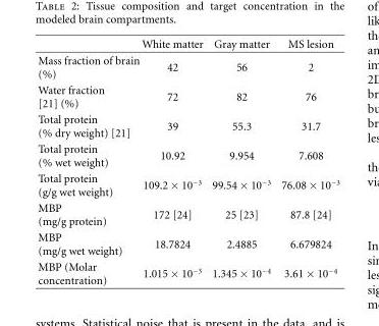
<table><thead><tr><td></td><td>White matter</td><td>Gray matter</td><td>MS lesion</td></tr></thead><tbody><tr><td>Mass fraction of brain (%)</td><td>42</td><td>56</td><td>2</td></tr><tr><td>Water fraction [21] (%)</td><td>72</td><td>82</td><td>76</td></tr><tr><td>Total protein (% dry weight) [21]</td><td>39</td><td>55.3</td><td>31.7</td></tr><tr><td>Total protein (% wet weight)</td><td>10.92</td><td>9.954</td><td>7.608</td></tr><tr><td>Total protein (g/g wet weight)</td><td>109.2 × 10<sup>−3</sup></td><td>99.54 × 10<sup>−3</sup></td><td>76.08 × 10<sup>−3</sup></td></tr><tr><td>MBP (mg/g protein)</td><td>172 [24]</td><td>25 [23]</td><td>87.8 [24]</td></tr><tr><td>MBP (mg/g wet weight)</td><td>18.7824</td><td>2.4885</td><td>6.679824</td></tr><tr><td>MBP (Molar concentration)</td><td>1.015 × 10<sup>−3</sup></td><td>1.345 × 10<sup>−4</sup></td><td>3.61 × 10<sup>−4</sup></td></tr></tbody></table>